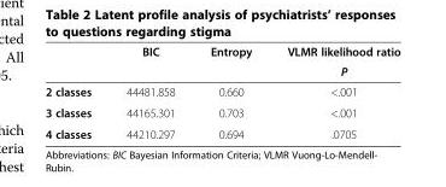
<table><thead><tr><td rowspan="2"></td><td rowspan="2">BIC</td><td rowspan="2">Entropy</td><td rowspan="2">VLMR likelihood ratio P</td></tr><tr></tr></thead><tbody><tr><td>2 classes</td><td>44481.858</td><td>0.660</td><td>&lt;.001</td></tr><tr><td>3 classes</td><td>44165.301</td><td>0.703</td><td>&lt;.001</td></tr><tr><td>4 classes</td><td>44210.297</td><td>0.694</td><td>.0705</td></tr></tbody></table>